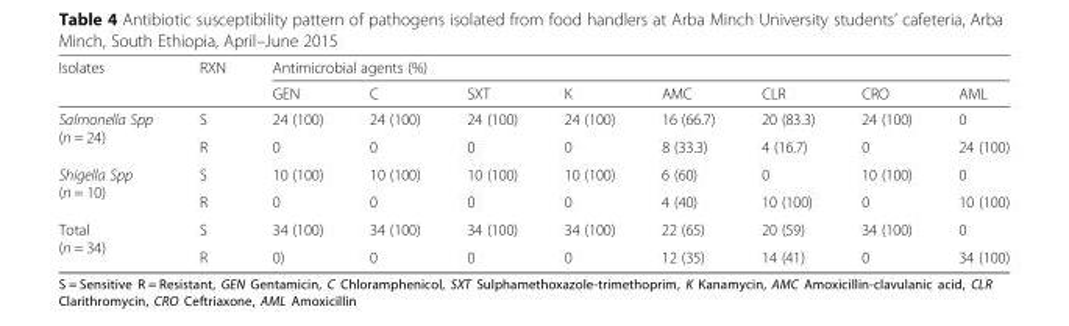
<table><thead><tr><td rowspan="2">Isolates</td><td rowspan="2">RXN</td><td colspan="8">Antimicrobial agents (%)</td></tr><tr><td>GEN</td><td>C</td><td>SXT</td><td>K</td><td>AMC</td><td>CLR</td><td>CRO</td><td>AML</td></tr></thead><tbody><tr><td rowspan="2">Salmonella Spp (n = 24)</td><td>S</td><td>24 (100)</td><td>24 (100)</td><td>24 (100)</td><td>24 (100)</td><td>16 (66.7)</td><td>20 (83.3)</td><td>24 (100)</td><td>0</td></tr><tr><td>R</td><td>0</td><td>0</td><td>0</td><td>0</td><td>8 (33.3)</td><td>4 (16.7)</td><td>0</td><td>24 (100)</td></tr><tr><td rowspan="2">Shigella Spp (n = 10)</td><td>S</td><td>10 (100)</td><td>10 (100)</td><td>10 (100)</td><td>10 (100)</td><td>6 (60)</td><td>0</td><td>10 (100)</td><td>0</td></tr><tr><td>R</td><td>0</td><td>0</td><td>0</td><td>0</td><td>4 (40)</td><td>10 (100)</td><td>0</td><td>10 (100)</td></tr><tr><td rowspan="2">Total (n = 34)</td><td>S</td><td>34 (100)</td><td>34 (100)</td><td>34 (100)</td><td>34 (100)</td><td>22 (65)</td><td>20 (59)</td><td>34 (100)</td><td>0</td></tr><tr><td>R</td><td>0)</td><td>0</td><td>0</td><td>0</td><td>12 (35)</td><td>14 (41)</td><td>0</td><td>34 (100)</td></tr></tbody></table>